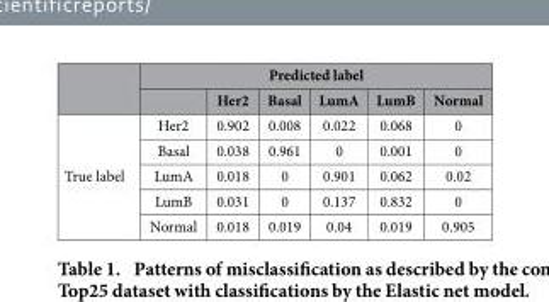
<table><thead><tr><td rowspan="2"></td><td colspan="6">Predicted label</td></tr><tr><td></td><td>Her2</td><td>Basal</td><td>LumA</td><td>LumB</td><td>Normal</td></tr></thead><tbody><tr><td rowspan="5">True label</td><td>Her2</td><td>0.902</td><td>0.008</td><td>0.022</td><td>0.068</td><td>0</td></tr><tr><td>Basal</td><td>0.038</td><td>0.961</td><td>0</td><td>0.001</td><td>0</td></tr><tr><td>LumA</td><td>0.018</td><td>0</td><td>0.901</td><td>0.062</td><td>0.02</td></tr><tr><td>LumB</td><td>0.031</td><td>0</td><td>0.137</td><td>0.832</td><td>0</td></tr><tr><td>Normal</td><td>0.018</td><td>0.019</td><td>0.04</td><td>0.019</td><td>0.905</td></tr></tbody></table>